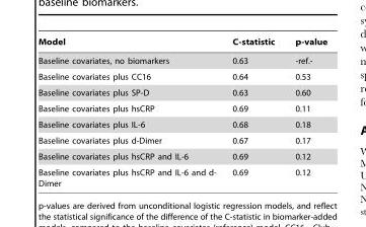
<table><thead><tr><td>Model</td><td>C-statistic</td><td>p-value</td></tr></thead><tbody><tr><td>Baseline covariates, no biomarkers</td><td>0.63</td><td>-ref.-</td></tr><tr><td>Baseline covariates plus CC16</td><td>0.64</td><td>0.53</td></tr><tr><td>Baseline covariates plus SP-D</td><td>0.63</td><td>0.60</td></tr><tr><td>Baseline covariates plus hsCRP</td><td>0.69</td><td>0.11</td></tr><tr><td>Baseline covariates plus IL-6</td><td>0.68</td><td>0.18</td></tr><tr><td>Baseline covariates plus d-Dimer</td><td>0.67</td><td>0.17</td></tr><tr><td>Baseline covariates plus hsCRP and IL-6</td><td>0.69</td><td>0.12</td></tr><tr><td>Baseline covariates plus hsCRP and IL-6 and d- Dimer</td><td>0.69</td><td>0.12</td></tr></tbody></table>